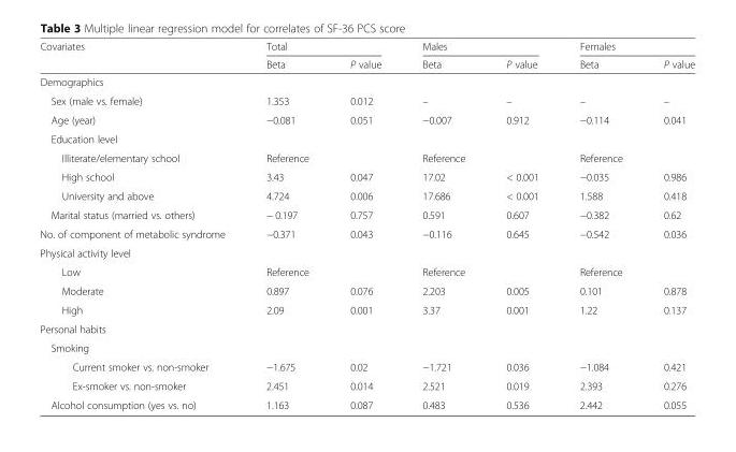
<table><thead><tr><td rowspan="2">Covariates</td><td colspan="2">Total</td><td colspan="2">Males</td><td colspan="2">Females</td></tr><tr><td>Beta</td><td>P value</td><td>Beta</td><td>P value</td><td>Beta</td><td>P value</td></tr></thead><tbody><tr><td colspan="7">Demographics</td></tr><tr><td>Sex (male vs. female)</td><td>1.353</td><td>0.012</td><td>–</td><td>–</td><td>–</td><td>–</td></tr><tr><td>Age (year)</td><td>−0.081</td><td>0.051</td><td>−0.007</td><td>0.912</td><td>−0.114</td><td>0.041</td></tr><tr><td colspan="7">Education level</td></tr><tr><td>Illiterate/elementary school</td><td>Reference</td><td></td><td>Reference</td><td></td><td>Reference</td><td></td></tr><tr><td>High school</td><td>3.43</td><td>0.047</td><td>17.02</td><td>&lt; 0.001</td><td>−0.035</td><td>0.986</td></tr><tr><td>University and above</td><td>4.724</td><td>0.006</td><td>17.686</td><td>&lt; 0.001</td><td>1.588</td><td>0.418</td></tr><tr><td>Marital status (married vs. others)</td><td>− 0.197</td><td>0.757</td><td>0.591</td><td>0.607</td><td>−0.382</td><td>0.62</td></tr><tr><td>No. of component of metabolic syndrome</td><td>−0.371</td><td>0.043</td><td>−0.116</td><td>0.645</td><td>−0.542</td><td>0.036</td></tr><tr><td colspan="7">Physical activity level</td></tr><tr><td>Low</td><td>Reference</td><td></td><td>Reference</td><td></td><td>Reference</td><td></td></tr><tr><td>Moderate</td><td>0.897</td><td>0.076</td><td>2.203</td><td>0.005</td><td>0.101</td><td>0.878</td></tr><tr><td>High</td><td>2.09</td><td>0.001</td><td>3.37</td><td>0.001</td><td>1.22</td><td>0.137</td></tr><tr><td colspan="7">Personal habits</td></tr><tr><td colspan="7">Smoking</td></tr><tr><td>Current smoker vs. non-smoker</td><td>−1.675</td><td>0.02</td><td>−1.721</td><td>0.036</td><td>−1.084</td><td>0.421</td></tr><tr><td>Ex-smoker vs. non-smoker</td><td>2.451</td><td>0.014</td><td>2.521</td><td>0.019</td><td>2.393</td><td>0.276</td></tr><tr><td>Alcohol consumption (yes vs. no)</td><td>1.163</td><td>0.087</td><td>0.483</td><td>0.536</td><td>2.442</td><td>0.055</td></tr></tbody></table>